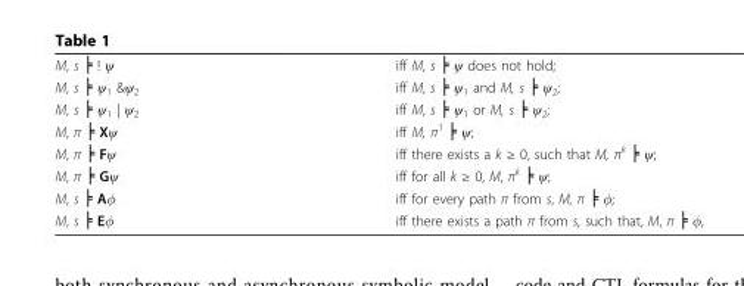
<table><tbody><tr><td>M, s ╞ ! ψ</td><td>iff M, s ╞ ψ does not hold;</td></tr><tr><td>M, s ╞ ψ<sub>1</sub> &amp;ψ<sub>2</sub></td><td>iff M, s ╞ ψ<sub>1</sub> and M, s ╞ ψ<sub>2</sub>;</td></tr><tr><td>M, s ╞ ψ<sub>1</sub> | ψ<sub>2</sub></td><td>iff M, s ╞ ψ<sub>1</sub> or M, s ╞ ψ<sub>2</sub>;</td></tr><tr><td>M, π ╞ Xψ</td><td>iff M, π<sup>1</sup> ╞ ψ;</td></tr><tr><td>M, π ╞ Fψ</td><td>iff there exists a k ≥ 0, such that M, π<sup>k</sup> ╞ ψ;</td></tr><tr><td>M, π ╞ Gψ</td><td>iff for all k ≥ 0, M, π<sup>k</sup> ╞ ψ;</td></tr><tr><td>M, s ╞ Aφ</td><td>iff for every path π from s, M, π ╞ φ;</td></tr><tr><td>M, s ╞ Eφ</td><td>iff there exists a path π from s, such that, M, π ╞</td></tr></tbody></table>